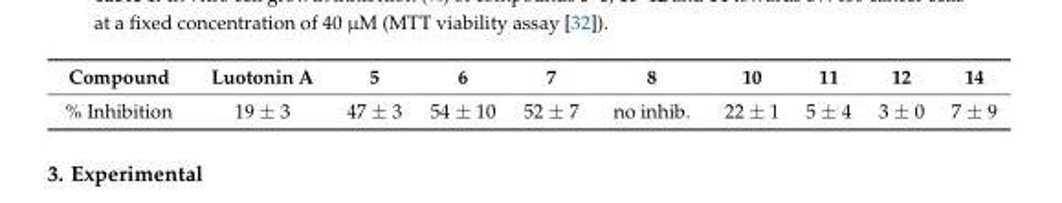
<table><thead><tr><td>Compound</td><td>Luotonin A</td><td>5</td><td>6</td><td>7</td><td>8</td><td>10</td><td>11</td><td>12</td><td>14</td></tr></thead><tbody><tr><td>% Inhibition</td><td>19 ± 3</td><td>47 ± 3</td><td>54 ± 10</td><td>52 ± 7</td><td>no inhib.</td><td>22 ± 1</td><td>5 ± 4</td><td>3 ± 0</td><td>7 ± 9</td></tr></tbody></table>